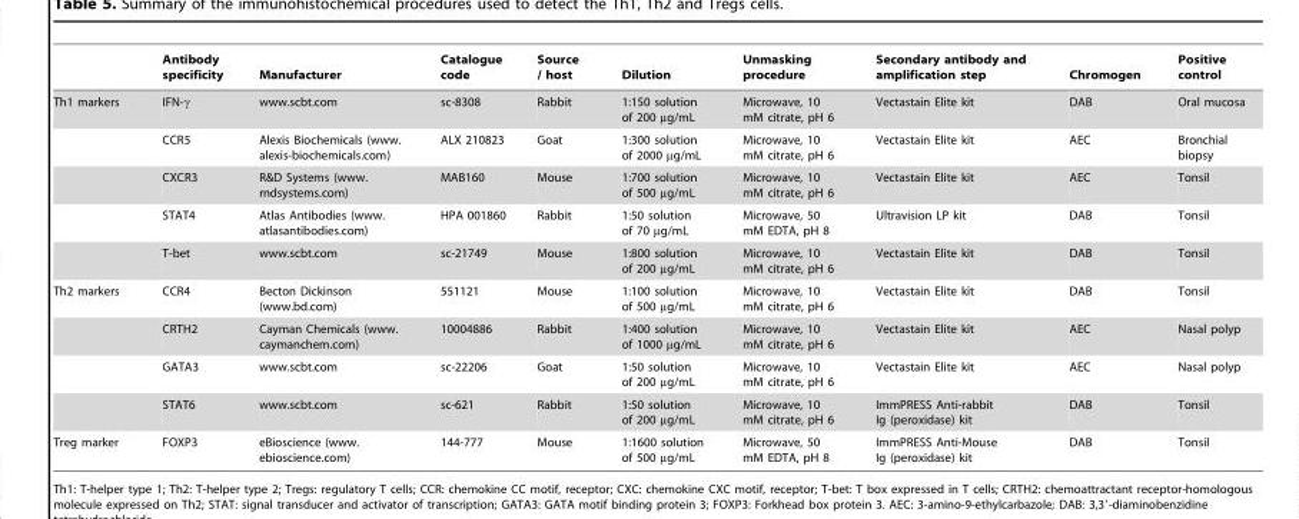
<table><thead><tr><td></td><td>Antibody specificity</td><td>Manufacturer</td><td>Catalogue code</td><td>Source / host</td><td>Dilution</td><td>Unmasking procedure</td><td>Secondary antibody and amplification step</td><td>Chromogen</td><td>Positive control</td></tr></thead><tbody><tr><td rowspan="5">Th1 markers</td><td>IFN-γ</td><td>www.scbt.com</td><td>sc-8308</td><td>Rabbit</td><td>1:150 solution of 200 µg/mL</td><td>Microwave, 10 mM citrate, pH 6</td><td>Vectastain Elite kit</td><td>DAB</td><td>Oral mucosa</td></tr><tr><td>CCR5</td><td>Alexis Biochemicals (www. alexis-biochemicals.com)</td><td>ALX 210823</td><td>Goat</td><td>1:300 solution of 2000 µg/mL</td><td>Microwave, 10 mM citrate, pH 6</td><td>Vectastain Elite kit</td><td>AEC</td><td>Bronchial biopsy</td></tr><tr><td>CXCR3</td><td>R&amp;D Systems (www. rndsystems.com)</td><td>MAB160</td><td>Mouse</td><td>1:700 solution of 500 µg/mL</td><td>Microwave, 10 mM citrate, pH 6</td><td>Vectastain Elite kit</td><td>AEC</td><td>Tonsil</td></tr><tr><td>STAT4</td><td>Atlas Antibodies (www. atlasantibodies.com)</td><td>HPA 001860</td><td>Rabbit</td><td>1:50 solution of 70 µg/mL</td><td>Microwave, 50 mM EDTA, pH 8</td><td>Ultravision LP kit</td><td>DAB</td><td>Tonsil</td></tr><tr><td>T-bet</td><td>www.scbt.com</td><td>sc-21749</td><td>Mouse</td><td>1:800 solution of 200 µg/mL</td><td>Microwave, 10 mM citrate, pH 6</td><td>Vectastain Elite kit</td><td>DAB</td><td>Tonsil</td></tr><tr><td rowspan="4">Th2 markers</td><td>CCR4</td><td>Becton Dickinson (www.bd.com)</td><td>551121</td><td>Mouse</td><td>1:100 solution of 500 µg/mL</td><td>Microwave, 10 mM citrate, pH 6</td><td>Vectastain Elite kit</td><td>DAB</td><td>Tonsil</td></tr><tr><td>CRTH2</td><td>Cayman Chemicals (www. caymanchem.com)</td><td>10004886</td><td>Rabbit</td><td>1:400 solution of 1000 µg/mL</td><td>Microwave, 10 mM citrate, pH 6</td><td>Vectastain Elite kit</td><td>AEC</td><td>Nasal polyp</td></tr><tr><td>GATA3</td><td>www.scbt.com</td><td>sc-22206</td><td>Goat</td><td>1:50 solution of 200 µg/mL</td><td>Microwave, 10 mM citrate, pH 6</td><td>Vectastain Elite kit</td><td>AEC</td><td>Nasal polyp</td></tr><tr><td>STAT6</td><td>www.scbt.com</td><td>sc-621</td><td>Rabbit</td><td>1:50 solution of 200 µg/mL</td><td>Microwave, 10 mM citrate, pH 6</td><td>ImmPRESS Anti-rabbit Ig (peroxidase) kit</td><td>DAB</td><td>Tonsil</td></tr><tr><td>Treg marker</td><td>FOXP3</td><td>eBioscience (www. ebioscience.com)</td><td>144-777</td><td>Mouse</td><td>1:1600 solution of 500 µg/mL</td><td>Microwave, 50 mM EDTA, pH 8</td><td>ImmPRESS Anti-Mouse Ig (peroxidase) kit</td><td>DAB</td><td>Tonsil</td></tr></tbody></table>